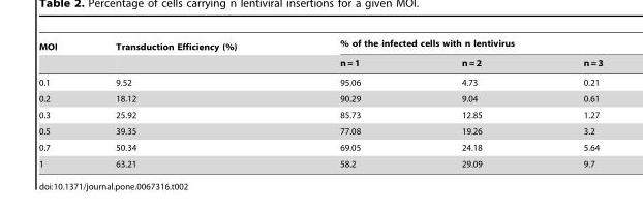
<table><thead><tr><td rowspan="2">MOI</td><td rowspan="2">Transduction Efficiency (%)</td><td colspan="3">% of the infected cells with n lentivirus</td></tr><tr><td>n = 1</td><td>n = 2</td><td>n = 3</td></tr></thead><tbody><tr><td>0.1</td><td>9.52</td><td>95.06</td><td>4.73</td><td>0.21</td></tr><tr><td>0.2</td><td>18.12</td><td>90.29</td><td>9.04</td><td>0.61</td></tr><tr><td>0.3</td><td>25.92</td><td>85.73</td><td>12.85</td><td>1.27</td></tr><tr><td>0.5</td><td>39.35</td><td>77.08</td><td>19.26</td><td>3.2</td></tr><tr><td>0.7</td><td>50.34</td><td>69.05</td><td>24.18</td><td>5.64</td></tr><tr><td>1</td><td>63.21</td><td>58.2</td><td>29.09</td><td>9.7</td></tr></tbody></table>